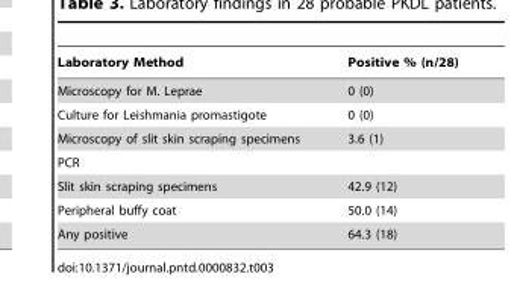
<table><thead><tr><td>Laboratory Method</td><td>Positive % (n/28)</td></tr></thead><tbody><tr><td>Microscopy for M. Leprae</td><td>0 (0)</td></tr><tr><td>Culture for Leishmania promastigote</td><td>0 (0)</td></tr><tr><td>Microscopy of slit skin scraping specimens</td><td>3.6 (1)</td></tr><tr><td colspan="2">PCR</td></tr><tr><td>Slit skin scraping specimens</td><td>42.9 (12)</td></tr><tr><td>Peripheral buffy coat</td><td>50.0 (14)</td></tr><tr><td>Any positive</td><td>64.3 (18)</td></tr></tbody></table>